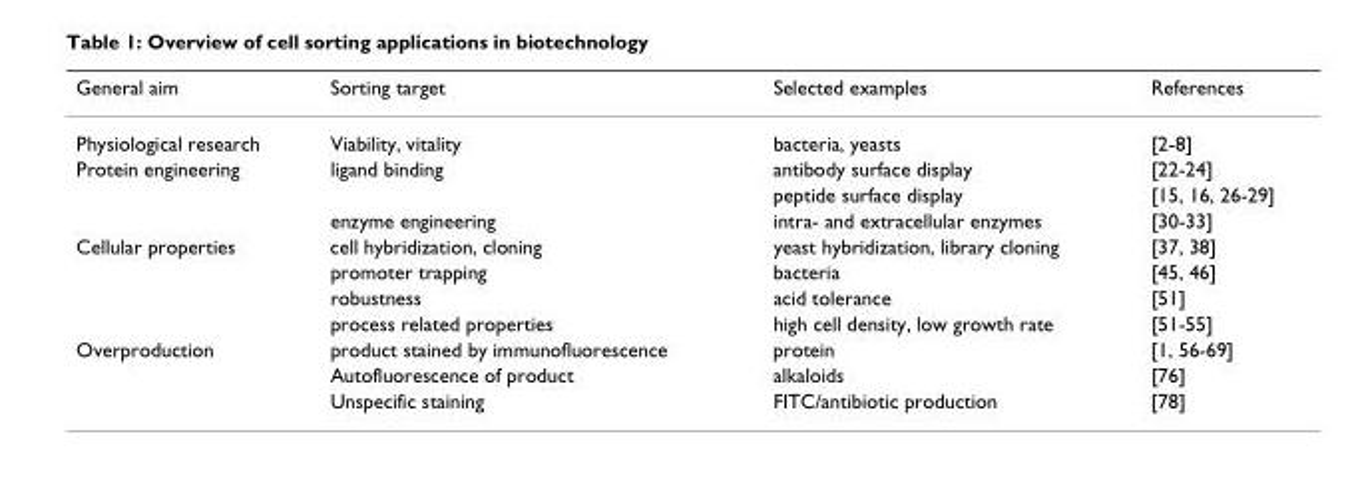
<table><thead><tr><td>General aim</td><td>Sorting target</td><td>Selected examples</td><td>References</td></tr></thead><tbody><tr><td>Physiological research</td><td>Viability, vitality</td><td>bacteria, yeasts</td><td>[2-8]</td></tr><tr><td rowspan="3">Protein engineering</td><td>ligand binding</td><td>antibody surface display</td><td>[22-24]</td></tr><tr><td></td><td>peptide surface display</td><td>[15, 16, 26-29]</td></tr><tr><td>enzyme engineering</td><td>intra- and extracellular enzymes</td><td>[30-33]</td></tr><tr><td rowspan="4">Cellular properties</td><td>cell hybridization, cloning</td><td>yeast hybridization, library cloning</td><td>[37, 38]</td></tr><tr><td>promoter trapping</td><td>bacteria</td><td>[45, 46]</td></tr><tr><td>robustness</td><td>acid tolerance</td><td>[51]</td></tr><tr><td>process related properties</td><td>high cell density, low growth rate</td><td>[51-55]</td></tr><tr><td rowspan="3">Overproduction</td><td>product stained by immunofluorescence</td><td>protein</td><td>[1, 56-69]</td></tr><tr><td>Autofluorescence of product</td><td>alkaloids</td><td>[76]</td></tr><tr><td>Unspecific staining</td><td>FITC/antibiotic production</td><td>[78]</td></tr></tbody></table>